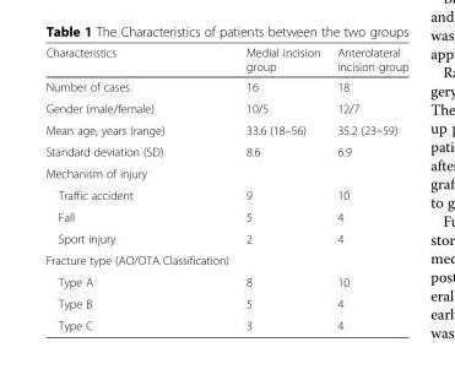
<table><thead><tr><td>Characteristics</td><td>Medial incision group</td><td>Anterolateral incision group</td></tr></thead><tbody><tr><td>Number of cases</td><td>16</td><td>18</td></tr><tr><td>Gender (male/female)</td><td>10/5</td><td>12/7</td></tr><tr><td>Mean age, years (range)</td><td>33.6 (18–56)</td><td>35.2 (23–59)</td></tr><tr><td>Standard deviation (SD)</td><td>8.6</td><td>6.9</td></tr><tr><td colspan="3">Mechanism of injury</td></tr><tr><td>Traffic accident</td><td>9</td><td>10</td></tr><tr><td>Fall</td><td>5</td><td>4</td></tr><tr><td>Sport injury</td><td>2</td><td>4</td></tr><tr><td colspan="3">Fracture type (AO/OTA Classification)</td></tr><tr><td>Type A</td><td>8</td><td>10</td></tr><tr><td>Type B</td><td>5</td><td>4</td></tr><tr><td>Type C</td><td>3</td><td>4</td></tr></tbody></table>